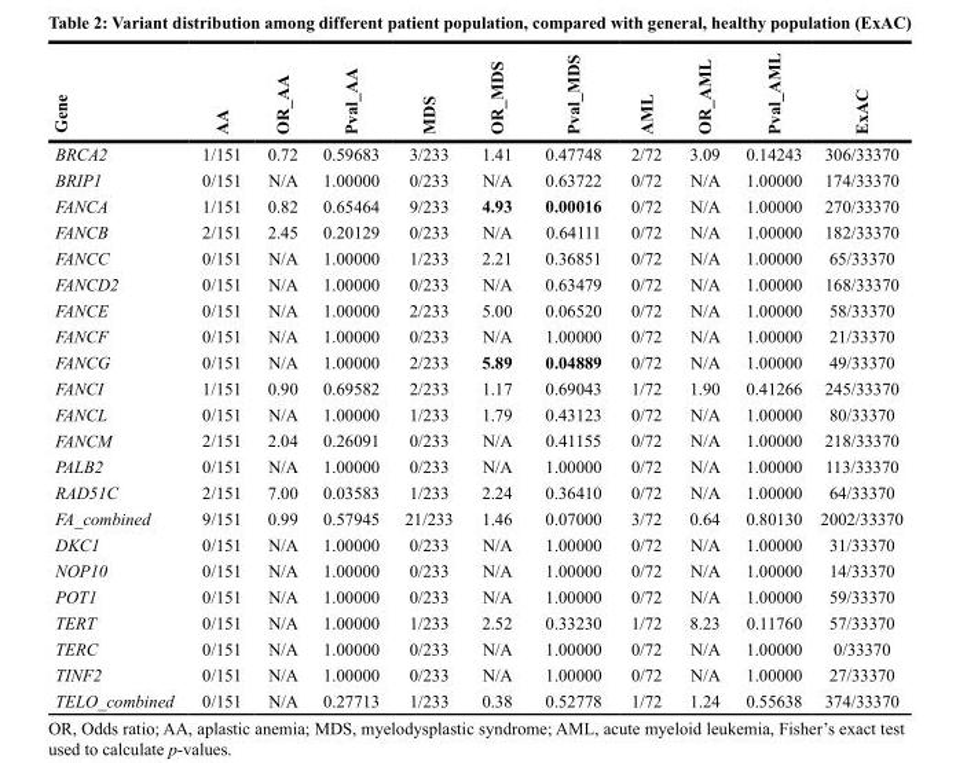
<table><thead><tr><td>Gene</td><td>AA</td><td>OR_AA</td><td>Pval_AA</td><td>MDS</td><td>OR_MDS</td><td>Pval_MDS</td><td>AML</td><td>OR_AML</td><td>Pval_AML</td><td>ExAC</td></tr></thead><tbody><tr><td>BRCA2</td><td>1/151</td><td>0.72</td><td>0.59683</td><td>3/233</td><td>1.41</td><td>0.47748</td><td>2/72</td><td>3.09</td><td>0.14243</td><td>306/33370</td></tr><tr><td>BRIP1</td><td>0/151</td><td>N/A</td><td>1.00000</td><td>0/233</td><td>N/A</td><td>0.63722</td><td>0/72</td><td>N/A</td><td>1.00000</td><td>174/33370</td></tr><tr><td>FANCA</td><td>1/151</td><td>0.82</td><td>0.65464</td><td>9/233</td><td>4.93</td><td>0.00016</td><td>0/72</td><td>N/A</td><td>1.00000</td><td>270/33370</td></tr><tr><td>FANCB</td><td>2/151</td><td>2.45</td><td>0.20129</td><td>0/233</td><td>N/A</td><td>0.64111</td><td>0/72</td><td>N/A</td><td>1.00000</td><td>182/33370</td></tr><tr><td>FANCC</td><td>0/151</td><td>N/A</td><td>1.00000</td><td>1/233</td><td>2.21</td><td>0.36851</td><td>0/72</td><td>N/A</td><td>1.00000</td><td>65/33370</td></tr><tr><td>FANCD2</td><td>0/151</td><td>N/A</td><td>1.00000</td><td>0/233</td><td>N/A</td><td>0.63479</td><td>0/72</td><td>N/A</td><td>1.00000</td><td>168/33370</td></tr><tr><td>FANCE</td><td>0/151</td><td>N/A</td><td>1.00000</td><td>2/233</td><td>5.00</td><td>0.06520</td><td>0/72</td><td>N/A</td><td>1.00000</td><td>58/33370</td></tr><tr><td>FANCF</td><td>0/151</td><td>N/A</td><td>1.00000</td><td>0/233</td><td>N/A</td><td>1.00000</td><td>0/72</td><td>N/A</td><td>1.00000</td><td>21/33370</td></tr><tr><td>FANCG</td><td>0/151</td><td>N/A</td><td>1.00000</td><td>2/233</td><td>5.89</td><td>0.04889</td><td>0/72</td><td>N/A</td><td>1.00000</td><td>49/33370</td></tr><tr><td>FANCI</td><td>1/151</td><td>0.90</td><td>0.69582</td><td>2/233</td><td>1.17</td><td>0.69043</td><td>1/72</td><td>1.90</td><td>0.41266</td><td>245/33370</td></tr><tr><td>FANCL</td><td>0/151</td><td>N/A</td><td>1.00000</td><td>1/233</td><td>1.79</td><td>0.43123</td><td>0/72</td><td>N/A</td><td>1.00000</td><td>80/33370</td></tr><tr><td>FANCM</td><td>2/151</td><td>2.04</td><td>0.26091</td><td>0/233</td><td>N/A</td><td>0.41155</td><td>0/72</td><td>N/A</td><td>1.00000</td><td>218/33370</td></tr><tr><td>PALB2</td><td>0/151</td><td>N/A</td><td>1.00000</td><td>0/233</td><td>N/A</td><td>1.00000</td><td>0/72</td><td>N/A</td><td>1.00000</td><td>113/33370</td></tr><tr><td>RAD51C</td><td>2/151</td><td>7.00</td><td>0.03583</td><td>1/233</td><td>2.24</td><td>0.36410</td><td>0/72</td><td>N/A</td><td>1.00000</td><td>64/33370</td></tr><tr><td>FA_combined</td><td>9/151</td><td>0.99</td><td>0.57945</td><td>21/233</td><td>1.46</td><td>0.07000</td><td>3/72</td><td>0.64</td><td>0.80130</td><td>2002/33370</td></tr><tr><td>DKC1</td><td>0/151</td><td>N/A</td><td>1.00000</td><td>0/233</td><td>N/A</td><td>1.00000</td><td>0/72</td><td>N/A</td><td>1.00000</td><td>31/33370</td></tr><tr><td>NOP10</td><td>0/151</td><td>N/A</td><td>1.00000</td><td>0/233</td><td>N/A</td><td>1.00000</td><td>0/72</td><td>N/A</td><td>1.00000</td><td>14/33370</td></tr><tr><td>POT1</td><td>0/151</td><td>N/A</td><td>1.00000</td><td>0/233</td><td>N/A</td><td>1.00000</td><td>0/72</td><td>N/A</td><td>1.00000</td><td>59/33370</td></tr><tr><td>TERT</td><td>0/151</td><td>N/A</td><td>1.00000</td><td>1/233</td><td>2.52</td><td>0.33230</td><td>1/72</td><td>8.23</td><td>0.11760</td><td>57/33370</td></tr><tr><td>TERC</td><td>0/151</td><td>N/A</td><td>1.00000</td><td>0/233</td><td>N/A</td><td>1.00000</td><td>0/72</td><td>N/A</td><td>1.00000</td><td>0/33370</td></tr><tr><td>TINF2</td><td>0/151</td><td>N/A</td><td>1.00000</td><td>0/233</td><td>N/A</td><td>1.00000</td><td>0/72</td><td>N/A</td><td>1.00000</td><td>27/33370</td></tr><tr><td>TELO_combined</td><td>0/151</td><td>N/A</td><td>0.27713</td><td>1/233</td><td>0.38</td><td>0.52778</td><td>1/72</td><td>1.24</td><td>0.55638</td><td>374/33370</td></tr></tbody></table>